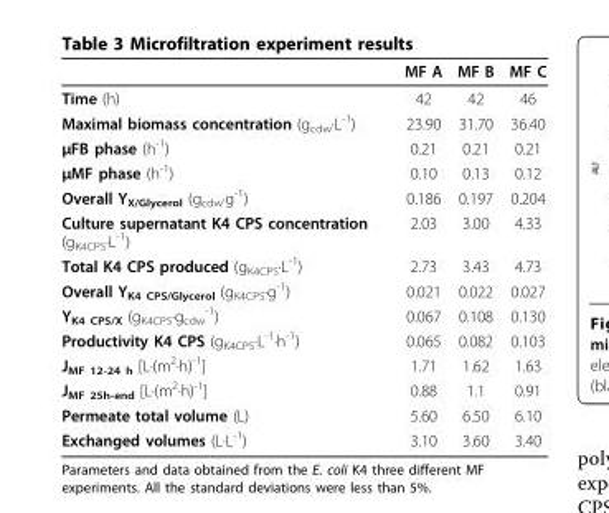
<table><thead><tr><td></td><td>MF A</td><td>MF B</td><td>MF C</td></tr></thead><tbody><tr><td>Time (h)</td><td>42</td><td>42</td><td>46</td></tr><tr><td>Maximal biomass concentration (g<sub>cdw</sub>·L<sup>-1</sup>)</td><td>23.90</td><td>31.70</td><td>36.40</td></tr><tr><td>μFB phase (h<sup>-1</sup>)</td><td>0.21</td><td>0.21</td><td>0.21</td></tr><tr><td>μMF phase (h<sup>-1</sup>)</td><td>0.10</td><td>0.13</td><td>0.12</td></tr><tr><td>Overall Y<sub>X/Glycerol</sub> (g<sub>cdw</sub>·g<sup>-1</sup>)</td><td>0.186</td><td>0.197</td><td>0.204</td></tr><tr><td>Culture supernatant K4 CPS concentration (g<sub>K4CPS</sub>·L<sup>-1</sup>)</td><td>2.03</td><td>3.00</td><td>4.33</td></tr><tr><td>Total K4 CPS produced (g<sub>K4CPS</sub>·L<sup>-1</sup>)</td><td>2.73</td><td>3.43</td><td>4.73</td></tr><tr><td>Overall Y<sub>K4 CPS/Glycerol</sub> (g<sub>K4CPS</sub>·g<sup>-1</sup>)</td><td>0.021</td><td>0.022</td><td>0.027</td></tr><tr><td>Y<sub>K4 CPS/X</sub> (g<sub>K4CPS</sub>·g<sub>cdw</sub> <sup>-1</sup>)</td><td>0.067</td><td>0.108</td><td>0.130</td></tr><tr><td>Productivity K4 CPS (g<sub>K4CPS</sub>·L<sup>-1</sup>·h<sup>-1</sup>)</td><td>0.065</td><td>0.082</td><td>0.103</td></tr><tr><td>J<sub>MF 12-24 h</sub> [L·(m<sup>2</sup>·h)<sup>-1</sup>]</td><td>1.71</td><td>1.62</td><td>1.63</td></tr><tr><td>J<sub>MF 25h-end</sub> [L·(m<sup>2</sup>·h)<sup>-1</sup>]</td><td>0.88</td><td>1.1</td><td>0.91</td></tr><tr><td>Permeate total volume (L)</td><td>5.60</td><td>6.50</td><td>6.10</td></tr><tr><td>Exchanged volumes (L·L<sup>-1</sup>)</td><td>3.10</td><td>3.60</td><td>3.40</td></tr></tbody></table>